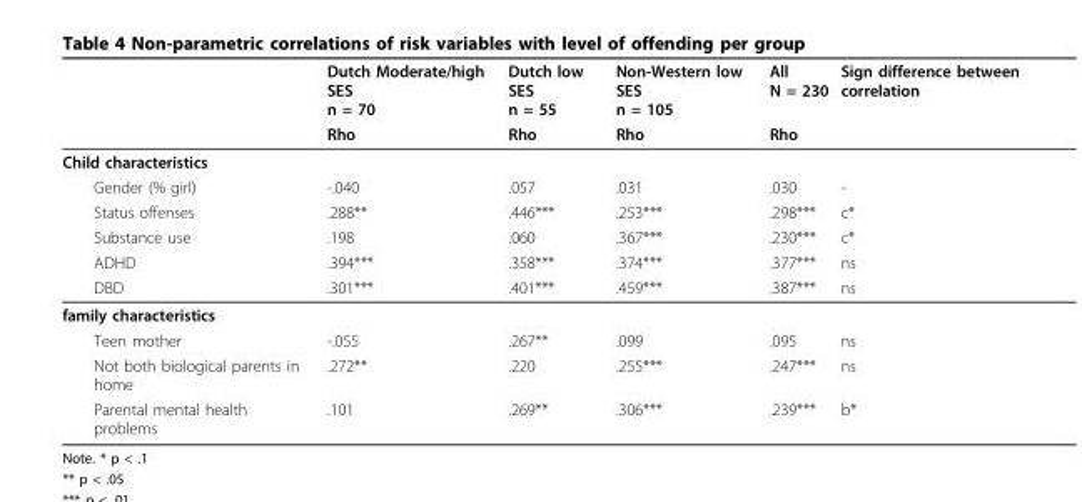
<table><thead><tr><td rowspan="2"></td><td rowspan="2">Dutch Moderate/high SES n = 70 Rho</td><td rowspan="2">Dutch low SES n = 55 Rho</td><td rowspan="2">Non-Western low SES n = 105 Rho</td><td rowspan="2">All N = 230 Rho</td><td rowspan="2">Sign difference between correlation</td></tr><tr></tr></thead><tbody><tr><td colspan="6">Child characteristics</td></tr><tr><td>Gender (% girl)</td><td>-.040</td><td>.057</td><td>.031</td><td>.030</td><td>-</td></tr><tr><td>Status offenses</td><td>.288**</td><td>.446***</td><td>.253***</td><td>.298***</td><td>c*</td></tr><tr><td>Substance use</td><td>.198</td><td>.060</td><td>.367***</td><td>.230***</td><td>c*</td></tr><tr><td>ADHD</td><td>.394***</td><td>.358***</td><td>.374***</td><td>.377***</td><td>ns</td></tr><tr><td>DBD</td><td>.301***</td><td>.401***</td><td>.459***</td><td>.387***</td><td>ns</td></tr><tr><td colspan="6">family characteristics</td></tr><tr><td>Teen mother</td><td>-.055</td><td>.267**</td><td>.099</td><td>.095</td><td>ns</td></tr><tr><td>Not both biological parents in home</td><td>.272**</td><td>.220</td><td>.255***</td><td>.247***</td><td>ns</td></tr><tr><td>Parental mental health problems</td><td>.101</td><td>.269**</td><td>.306***</td><td>.239***</td><td>b*</td></tr></tbody></table>